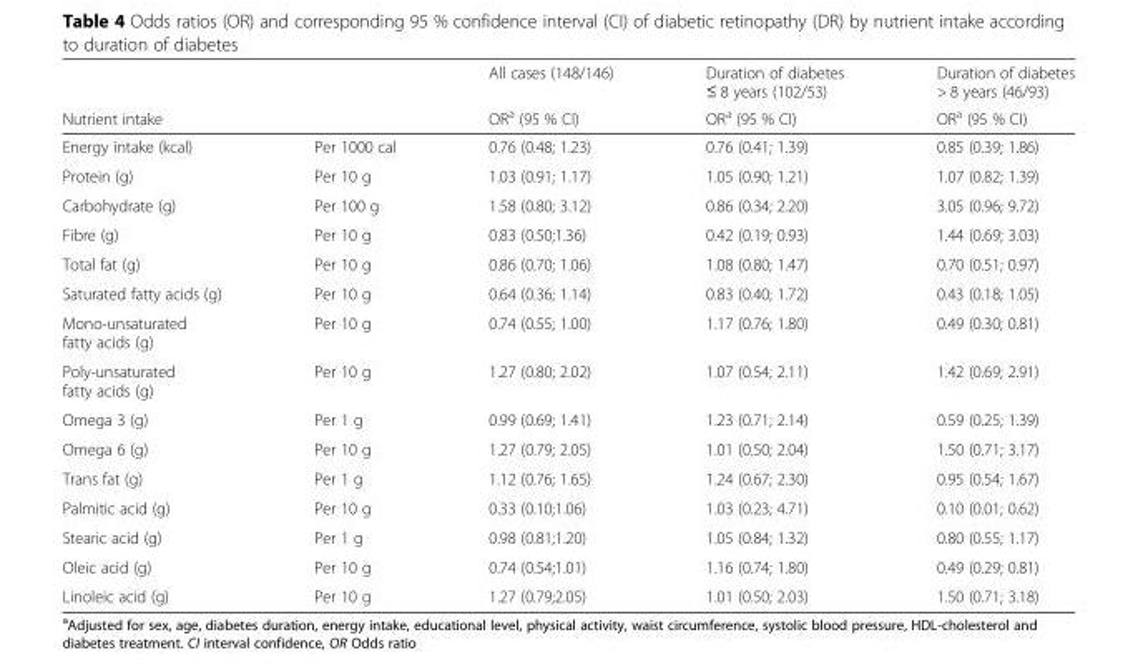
<table><thead><tr><td></td><td></td><td rowspan="2">All cases (148/146) OR<sup>a</sup> (95 % CI)</td><td rowspan="2">Duration of diabetes ≤ 8 years (102/53) OR<sup>a</sup> (95 % CI)</td><td rowspan="2">Duration of diabetes &gt; 8 years (46/93) OR<sup>a</sup> (95 % CI)</td></tr><tr><td colspan="2">Nutrient intake</td></tr></thead><tbody><tr><td>Energy intake (kcal)</td><td>Per 1000 cal</td><td>0.76 (0.48; 1.23)</td><td>0.76 (0.41; 1.39)</td><td>0.85 (0.39; 1.86)</td></tr><tr><td>Protein (g)</td><td>Per 10 g</td><td>1.03 (0.91; 1.17)</td><td>1.05 (0.90; 1.21)</td><td>1.07 (0.82; 1.39)</td></tr><tr><td>Carbohydrate (g)</td><td>Per 100 g</td><td>1.58 (0.80; 3.12)</td><td>0.86 (0.34; 2.20)</td><td>3.05 (0.96; 9.72)</td></tr><tr><td>Fibre (g)</td><td>Per 10 g</td><td>0.83 (0.50;1.36)</td><td>0.42 (0.19; 0.93)</td><td>1.44 (0.69; 3.03)</td></tr><tr><td>Total fat (g)</td><td>Per 10 g</td><td>0.86 (0.70; 1.06)</td><td>1.08 (0.80; 1.47)</td><td>0.70 (0.51; 0.97)</td></tr><tr><td>Saturated fatty acids (g)</td><td>Per 10 g</td><td>0.64 (0.36; 1.14)</td><td>0.83 (0.40; 1.72)</td><td>0.43 (0.18; 1.05)</td></tr><tr><td>Mono-unsaturated fatty acids (g)</td><td>Per 10 g</td><td>0.74 (0.55; 1.00)</td><td>1.17 (0.76; 1.80)</td><td>0.49 (0.30; 0.81)</td></tr><tr><td>Poly-unsaturated fatty acids (g)</td><td>Per 10 g</td><td>1.27 (0.80; 2.02)</td><td>1.07 (0.54; 2.11)</td><td>1.42 (0.69; 2.91)</td></tr><tr><td>Omega 3 (g)</td><td>Per 1 g</td><td>0.99 (0.69; 1.41)</td><td>1.23 (0.71; 2.14)</td><td>0.59 (0.25; 1.39)</td></tr><tr><td>Omega 6 (g)</td><td>Per 10 g</td><td>1.27 (0.79; 2.05)</td><td>1.01 (0.50; 2.04)</td><td>1.50 (0.71; 3.17)</td></tr><tr><td>Trans fat (g)</td><td>Per 1 g</td><td>1.12 (0.76; 1.65)</td><td>1.24 (0.67; 2.30)</td><td>0.95 (0.54; 1.67)</td></tr><tr><td>Palmitic acid (g)</td><td>Per 10 g</td><td>0.33 (0.10;1.06)</td><td>1.03 (0.23; 4.71)</td><td>0.10 (0.01; 0.62)</td></tr><tr><td>Stearic acid (g)</td><td>Per 1 g</td><td>0.98 (0.81;1.20)</td><td>1.05 (0.84; 1.32)</td><td>0.80 (0.55; 1.17)</td></tr><tr><td>Oleic acid (g)</td><td>Per 10 g</td><td>0.74 (0.54;1.01)</td><td>1.16 (0.74; 1.80)</td><td>0.49 (0.29; 0.81)</td></tr><tr><td>Linoleic acid (g)</td><td>Per 10 g</td><td>1.27 (0.79;2.05)</td><td>1.01 (0.50; 2.03)</td><td>1.50 (0.71; 3.18)</td></tr></tbody></table>